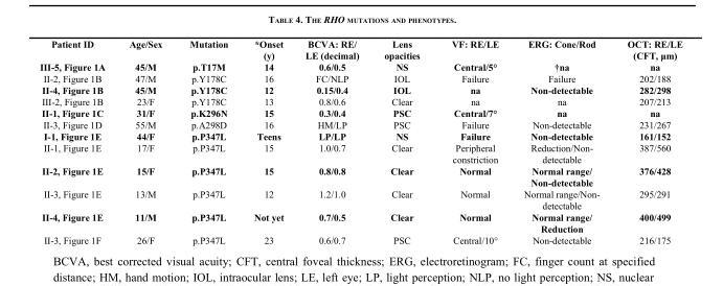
<table><thead><tr><td>Patient ID</td><td>Age/Sex</td><td>Mutation</td><td>*Onset (y)</td><td>BCVA: RE/ LE (decimal)</td><td>Lens opacities</td><td>VF: RE/LE</td><td>ERG: Cone/Rod</td><td>OCT: RE/LE (CFT, μm)</td></tr></thead><tbody><tr><td>III-5, Figure 1A</td><td>45/M</td><td>p.T17M</td><td>14</td><td>0.6/0.5</td><td>NS</td><td>Central/5°</td><td>†na</td><td>na</td></tr><tr><td>II-2, Figure 1B</td><td>47/M</td><td>p.Y178C</td><td>16</td><td>FC/NLP</td><td>IOL</td><td>Failure</td><td>Failure</td><td>202/188</td></tr><tr><td>II-4, Figure 1B</td><td>45/M</td><td>p.Y178C</td><td>12</td><td>0.15/0.4</td><td>IOL</td><td>na</td><td>Non-detectable</td><td>282/298</td></tr><tr><td>III-2, Figure 1B</td><td>23/F</td><td>p.Y178C</td><td>13</td><td>0.8/0.6</td><td>Clear</td><td>na</td><td>na</td><td>207/213</td></tr><tr><td>II-1, Figure 1C</td><td>31/F</td><td>p.K296N</td><td>15</td><td>0.3/0.4</td><td>PSC</td><td>Central/7°</td><td>na</td><td>na</td></tr><tr><td>II-3, Figure 1D</td><td>55/M</td><td>p.A298D</td><td>16</td><td>HM/LP</td><td>PSC</td><td>Failure</td><td>Non-detectable</td><td>231/267</td></tr><tr><td>I-1, Figure 1E</td><td>44/F</td><td>p.P347L</td><td>Teens</td><td>LP/LP</td><td>NS</td><td>Failure</td><td>Non-detectable</td><td>161/152</td></tr><tr><td>II-1, Figure 1E</td><td>17/F</td><td>p.P347L</td><td>15</td><td>1.0/0.7</td><td>Clear</td><td>Peripheral constriction</td><td>Reduction/Non- detectable</td><td>387/560</td></tr><tr><td>II-2, Figure 1E</td><td>15/F</td><td>p.P347L</td><td>15</td><td>0.8/0.8</td><td>Clear</td><td>Normal</td><td>Normal range/ Non-detectable</td><td>376/428</td></tr><tr><td>II-3, Figure 1E</td><td>13/M</td><td>p.P347L</td><td>12</td><td>1.2/1.0</td><td>Clear</td><td>Normal</td><td>Normal range/Non- detectable</td><td>295/291</td></tr><tr><td>II-4, Figure 1E</td><td>11/M</td><td>p.P347L</td><td>Not yet</td><td>0.7/0.5</td><td>Clear</td><td>Normal</td><td>Normal range/ Reduction</td><td>400/499</td></tr><tr><td>II-3, Figure 1F</td><td>26/F</td><td>p.P347L</td><td>23</td><td>0.6/0.7</td><td>PSC</td><td>Central/10°</td><td>Non-detectable</td><td>216/175</td></tr></tbody></table>